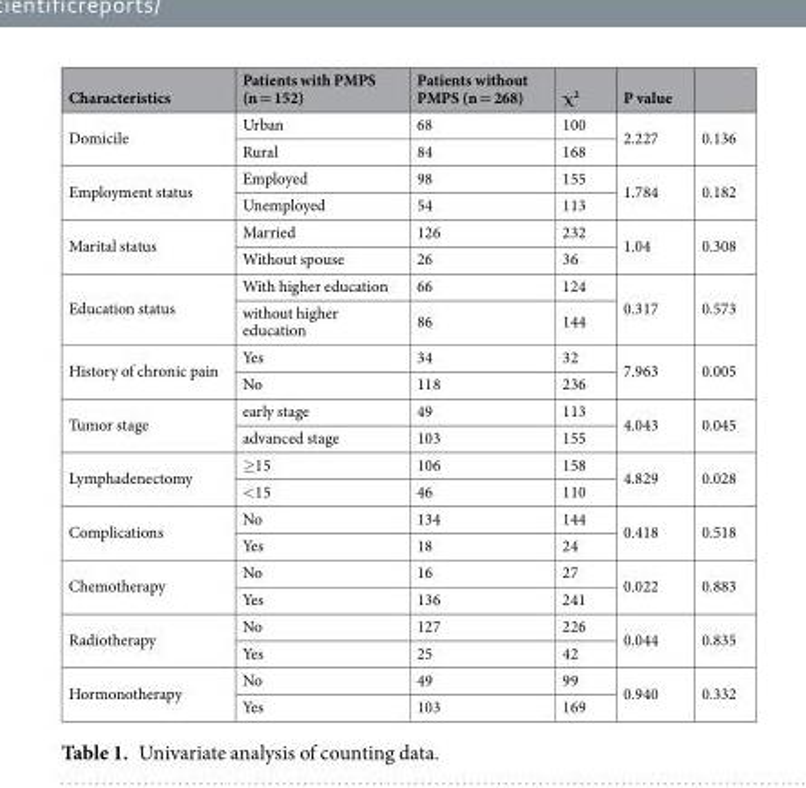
<table><thead><tr><td>Characteristics</td><td>Patients with PMPS (n = 152)</td><td>Patients without PMPS (n = 268)</td><td>χ<sup>2</sup></td><td>P value</td><td></td></tr></thead><tbody><tr><td rowspan="2">Domicile</td><td>Urban</td><td>68</td><td>100</td><td rowspan="2">2.227</td><td rowspan="2">0.136</td></tr><tr><td>Rural</td><td>84</td><td>168</td></tr><tr><td rowspan="2">Employment status</td><td>Employed</td><td>98</td><td>155</td><td rowspan="2">1.784</td><td rowspan="2">0.182</td></tr><tr><td>Unemployed</td><td>54</td><td>113</td></tr><tr><td rowspan="2">Marital status</td><td>Married</td><td>126</td><td>232</td><td rowspan="2">1.04</td><td rowspan="2">0.308</td></tr><tr><td>Without spouse</td><td>26</td><td>36</td></tr><tr><td rowspan="2">Education status</td><td>With higher education</td><td>66</td><td>124</td><td rowspan="2">0.317</td><td rowspan="2">0.573</td></tr><tr><td>without higher education</td><td>86</td><td>144</td></tr><tr><td rowspan="2">History of chronic pain</td><td>Yes</td><td>34</td><td>32</td><td rowspan="2">7.963</td><td rowspan="2">0.005</td></tr><tr><td>No</td><td>118</td><td>236</td></tr><tr><td rowspan="2">Tumor stage</td><td>early stage</td><td>49</td><td>113</td><td rowspan="2">4.043</td><td rowspan="2">0.045</td></tr><tr><td>advanced stage</td><td>103</td><td>155</td></tr><tr><td rowspan="2">Lymphadenectomy</td><td>≥15</td><td>106</td><td>158</td><td rowspan="2">4.829</td><td rowspan="2">0.028</td></tr><tr><td>&lt;15</td><td>46</td><td>110</td></tr><tr><td rowspan="2">Complications</td><td>No</td><td>134</td><td>144</td><td rowspan="2">0.418</td><td rowspan="2">0.518</td></tr><tr><td>Yes</td><td>18</td><td>24</td></tr><tr><td rowspan="2">Chemotherapy</td><td>No</td><td>16</td><td>27</td><td rowspan="2">0.022</td><td rowspan="2">0.883</td></tr><tr><td>Yes</td><td>136</td><td>241</td></tr><tr><td rowspan="2">Radiotherapy</td><td>No</td><td>127</td><td>226</td><td rowspan="2">0.044</td><td rowspan="2">0.835</td></tr><tr><td>Yes</td><td>25</td><td>42</td></tr><tr><td rowspan="2">Hormonotherapy</td><td>No</td><td>49</td><td>99</td><td rowspan="2">0.940</td><td rowspan="2">0.332</td></tr><tr><td>Yes</td><td>103</td><td>169</td></tr></tbody></table>